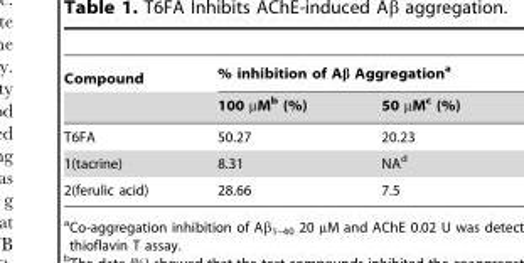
<table><thead><tr><td rowspan="2">Compound</td><td colspan="2">% inhibition of Aβ Aggregation<sup>a</sup></td></tr><tr><td>100 µM<sup>b</sup> (%)</td><td>50 µM<sup>c</sup> (%)</td></tr></thead><tbody><tr><td>T6FA</td><td>50.27</td><td>20.23</td></tr><tr><td>1(tacrine)</td><td>8.31</td><td>NA<sup>d</sup></td></tr><tr><td>2(ferulic acid)</td><td>28.66</td><td>7.5</td></tr></tbody></table>